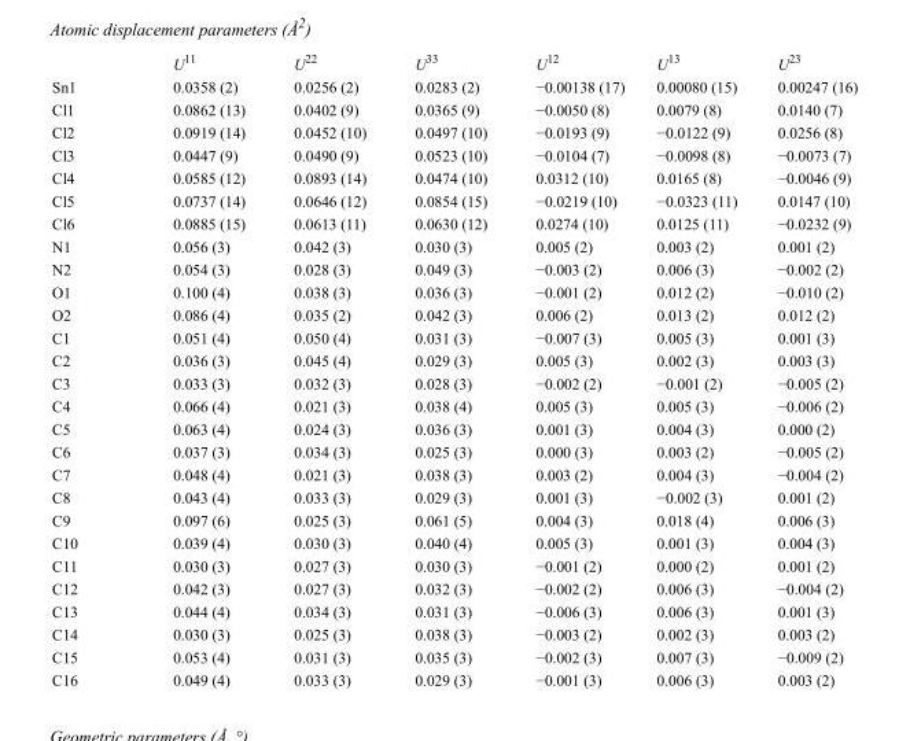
<table><thead><tr><td></td><td>U<sup>11</sup></td><td>U<sup>22</sup></td><td>U<sup>33</sup></td><td>U<sup>12</sup></td><td>U<sup>13</sup></td><td>U<sup>23</sup></td></tr></thead><tbody><tr><td>Sn1</td><td>0.0358 (2)</td><td>0.0256 (2)</td><td>0.0283 (2)</td><td>−0.00138 (17)</td><td>0.00080 (15)</td><td>0.00247 (16)</td></tr><tr><td>Cl1</td><td>0.0862 (13)</td><td>0.0402 (9)</td><td>0.0365 (9)</td><td>−0.0050 (8)</td><td>0.0079 (8)</td><td>0.0140 (7)</td></tr><tr><td>Cl2</td><td>0.0919 (14)</td><td>0.0452 (10)</td><td>0.0497 (10)</td><td>−0.0193 (9)</td><td>−0.0122 (9)</td><td>0.0256 (8)</td></tr><tr><td>Cl3</td><td>0.0447 (9)</td><td>0.0490 (9)</td><td>0.0523 (10)</td><td>−0.0104 (7)</td><td>−0.0098 (8)</td><td>−0.0073 (7)</td></tr><tr><td>Cl4</td><td>0.0585 (12)</td><td>0.0893 (14)</td><td>0.0474 (10)</td><td>0.0312 (10)</td><td>0.0165 (8)</td><td>−0.0046 (9)</td></tr><tr><td>Cl5</td><td>0.0737 (14)</td><td>0.0646 (12)</td><td>0.0854 (15)</td><td>−0.0219 (10)</td><td>−0.0323 (11)</td><td>0.0147 (10)</td></tr><tr><td>Cl6</td><td>0.0885 (15)</td><td>0.0613 (11)</td><td>0.0630 (12)</td><td>0.0274 (10)</td><td>0.0125 (11)</td><td>−0.0232 (9)</td></tr><tr><td>N1</td><td>0.056 (3)</td><td>0.042 (3)</td><td>0.030 (3)</td><td>0.005 (2)</td><td>0.003 (2)</td><td>0.001 (2)</td></tr><tr><td>N2</td><td>0.054 (3)</td><td>0.028 (3)</td><td>0.049 (3)</td><td>−0.003 (2)</td><td>0.006 (3)</td><td>−0.002 (2)</td></tr><tr><td>O1</td><td>0.100 (4)</td><td>0.038 (3)</td><td>0.036 (3)</td><td>−0.001 (2)</td><td>0.012 (2)</td><td>−0.010 (2)</td></tr><tr><td>O2</td><td>0.086 (4)</td><td>0.035 (2)</td><td>0.042 (3)</td><td>0.006 (2)</td><td>0.013 (2)</td><td>0.012 (2)</td></tr><tr><td>C1</td><td>0.051 (4)</td><td>0.050 (4)</td><td>0.031 (3)</td><td>−0.007 (3)</td><td>0.005 (3)</td><td>0.001 (3)</td></tr><tr><td>C2</td><td>0.036 (3)</td><td>0.045 (4)</td><td>0.029 (3)</td><td>0.005 (3)</td><td>0.002 (3)</td><td>0.003 (3)</td></tr><tr><td>C3</td><td>0.033 (3)</td><td>0.032 (3)</td><td>0.028 (3)</td><td>−0.002 (2)</td><td>−0.001 (2)</td><td>−0.005 (2)</td></tr><tr><td>C4</td><td>0.066 (4)</td><td>0.021 (3)</td><td>0.038 (4)</td><td>0.005 (3)</td><td>0.005 (3)</td><td>−0.006 (2)</td></tr><tr><td>C5</td><td>0.063 (4)</td><td>0.024 (3)</td><td>0.036 (3)</td><td>0.001 (3)</td><td>0.004 (3)</td><td>0.000 (2)</td></tr><tr><td>C6</td><td>0.037 (3)</td><td>0.034 (3)</td><td>0.025 (3)</td><td>0.000 (3)</td><td>0.003 (2)</td><td>−0.005 (2)</td></tr><tr><td>C7</td><td>0.048 (4)</td><td>0.021 (3)</td><td>0.038 (3)</td><td>0.003 (2)</td><td>0.004 (3)</td><td>−0.004 (2)</td></tr><tr><td>C8</td><td>0.043 (4)</td><td>0.033 (3)</td><td>0.029 (3)</td><td>0.001 (3)</td><td>−0.002 (3)</td><td>0.001 (2)</td></tr><tr><td>C9</td><td>0.097 (6)</td><td>0.025 (3)</td><td>0.061 (5)</td><td>0.004 (3)</td><td>0.018 (4)</td><td>0.006 (3)</td></tr><tr><td>C10</td><td>0.039 (4)</td><td>0.030 (3)</td><td>0.040 (4)</td><td>0.005 (3)</td><td>0.001 (3)</td><td>0.004 (3)</td></tr><tr><td>C11</td><td>0.030 (3)</td><td>0.027 (3)</td><td>0.030 (3)</td><td>−0.001 (2)</td><td>0.000 (2)</td><td>0.001 (2)</td></tr><tr><td>C12</td><td>0.042 (3)</td><td>0.027 (3)</td><td>0.032 (3)</td><td>−0.002 (2)</td><td>0.006 (3)</td><td>−0.004 (2)</td></tr><tr><td>C13</td><td>0.044 (4)</td><td>0.034 (3)</td><td>0.031 (3)</td><td>−0.006 (3)</td><td>0.006 (3)</td><td>0.001 (3)</td></tr><tr><td>C14</td><td>0.030 (3)</td><td>0.025 (3)</td><td>0.038 (3)</td><td>−0.003 (2)</td><td>0.002 (3)</td><td>0.003 (2)</td></tr><tr><td>C15</td><td>0.053 (4)</td><td>0.031 (3)</td><td>0.035 (3)</td><td>−0.002 (3)</td><td>0.007 (3)</td><td>−0.009 (2)</td></tr><tr><td>C16</td><td>0.049 (4)</td><td>0.033 (3)</td><td>0.029 (3)</td><td>−0.001 (3)</td><td>0.006 (3)</td><td>0.003 (2)</td></tr></tbody></table>